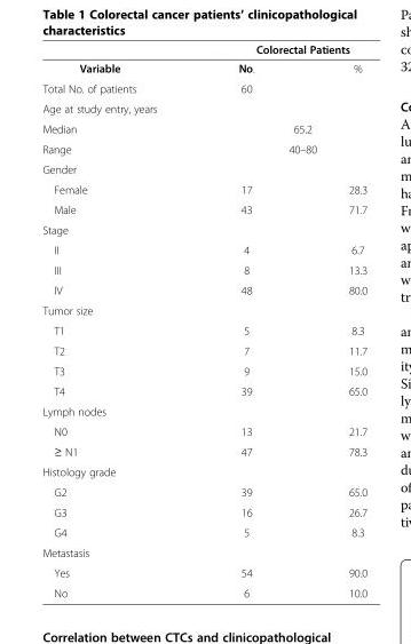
<table><thead><tr><td rowspan="2">Variable</td><td colspan="2">Colorectal Patients</td></tr><tr><td>No.</td><td>%</td></tr></thead><tbody><tr><td>Total No. of patients</td><td>60</td><td></td></tr><tr><td colspan="3">Age at study entry, years</td></tr><tr><td>Median</td><td colspan="2">65.2</td></tr><tr><td>Range</td><td colspan="2">40–80</td></tr><tr><td colspan="3">Gender</td></tr><tr><td>Female</td><td>17</td><td>28.3</td></tr><tr><td>Male</td><td>43</td><td>71.7</td></tr><tr><td colspan="3">Stage</td></tr><tr><td>II</td><td>4</td><td>6.7</td></tr><tr><td>III</td><td>8</td><td>13.3</td></tr><tr><td>IV</td><td>48</td><td>80.0</td></tr><tr><td colspan="3">Tumor size</td></tr><tr><td>T1</td><td>5</td><td>8.3</td></tr><tr><td>T2</td><td>7</td><td>11.7</td></tr><tr><td>T3</td><td>9</td><td>15.0</td></tr><tr><td>T4</td><td>39</td><td>65.0</td></tr><tr><td colspan="3">Lymph nodes</td></tr><tr><td>N0</td><td>13</td><td>21.7</td></tr><tr><td>≥ N1</td><td>47</td><td>78.3</td></tr><tr><td colspan="3">Histology grade</td></tr><tr><td>G2</td><td>39</td><td>65.0</td></tr><tr><td>G3</td><td>16</td><td>26.7</td></tr><tr><td>G4</td><td>5</td><td>8.3</td></tr><tr><td colspan="3">Metastasis</td></tr><tr><td>Yes</td><td>54</td><td>90.0</td></tr><tr><td>No</td><td>6</td><td>10.0</td></tr></tbody></table>